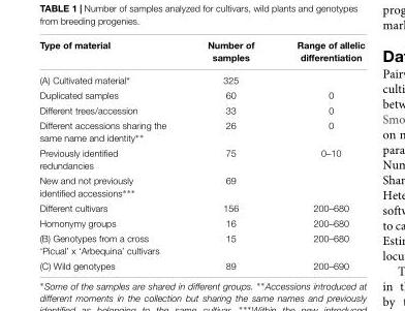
<table><thead><tr><td>Type of material</td><td>Number of samples</td><td>Range of allelic differentiation</td></tr></thead><tbody><tr><td>(A) Cultivated material∗</td><td>325</td><td></td></tr><tr><td>Duplicated samples</td><td>60</td><td>0</td></tr><tr><td>Different trees/accession</td><td>33</td><td>0</td></tr><tr><td>Different accessions sharing the same name and identity∗∗</td><td>26</td><td>0</td></tr><tr><td>Previously identified redundancies</td><td>75</td><td>0–10</td></tr><tr><td>New and not previously identified accessions∗∗∗</td><td>69</td><td></td></tr><tr><td>Different cultivars</td><td>156</td><td>200–680</td></tr><tr><td>Homonymy groups</td><td>16</td><td>200–680</td></tr><tr><td>(B) Genotypes from a cross ‘Picual’ x ‘Arbequina’ cultivars</td><td>15</td><td>200–680</td></tr><tr><td>(C) Wild genotypes</td><td>89</td><td>200–690</td></tr></tbody></table>